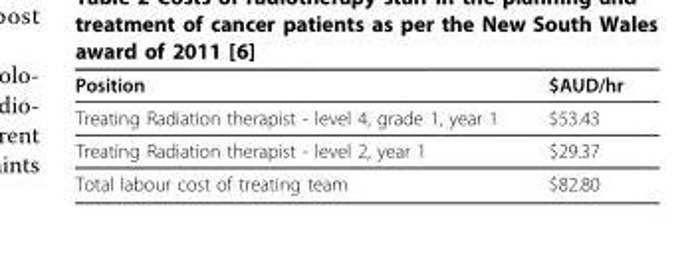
<table><thead><tr><td>Position</td><td>$AUD/hr</td></tr></thead><tbody><tr><td>Treating Radiation therapist - level 4, grade 1, year 1</td><td>$53.43</td></tr><tr><td>Treating Radiation therapist - level 2, year 1</td><td>$29.37</td></tr><tr><td>Total labour cost of treating team</td><td>$82.80</td></tr></tbody></table>